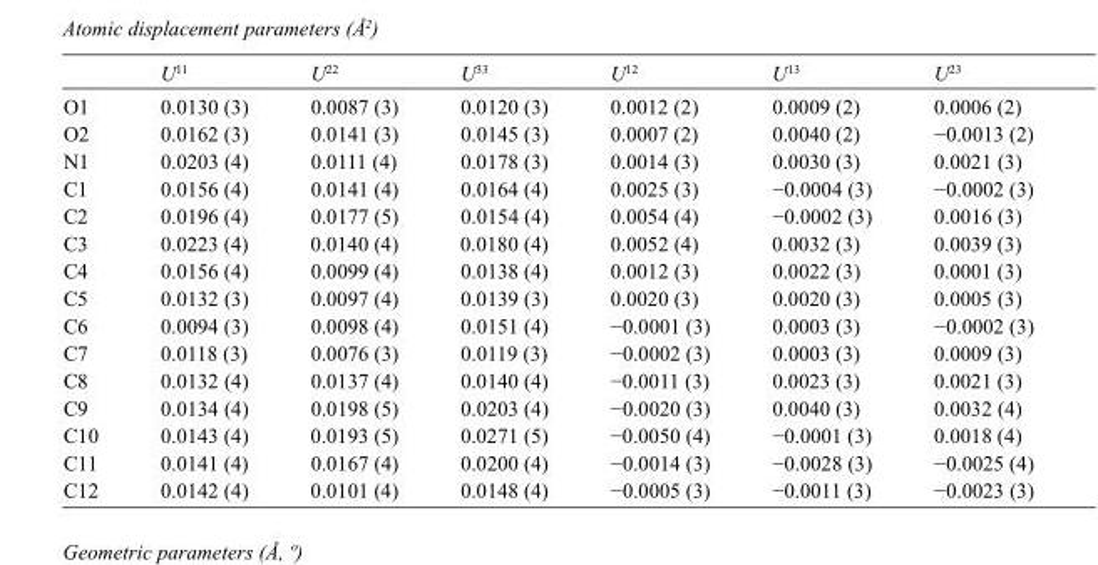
<table><thead><tr><td></td><td>U<sup>11</sup></td><td>U<sup>22</sup></td><td>U<sup>33</sup></td><td>U<sup>12</sup></td><td>U<sup>13</sup></td><td>U<sup>23</sup></td></tr></thead><tbody><tr><td>O1</td><td>0.0130 (3)</td><td>0.0087 (3)</td><td>0.0120 (3)</td><td>0.0012 (2)</td><td>0.0009 (2)</td><td>0.0006 (2)</td></tr><tr><td>O2</td><td>0.0162 (3)</td><td>0.0141 (3)</td><td>0.0145 (3)</td><td>0.0007 (2)</td><td>0.0040 (2)</td><td>−0.0013 (2)</td></tr><tr><td>N1</td><td>0.0203 (4)</td><td>0.0111 (4)</td><td>0.0178 (3)</td><td>0.0014 (3)</td><td>0.0030 (3)</td><td>0.0021 (3)</td></tr><tr><td>C1</td><td>0.0156 (4)</td><td>0.0141 (4)</td><td>0.0164 (4)</td><td>0.0025 (3)</td><td>−0.0004 (3)</td><td>−0.0002 (3)</td></tr><tr><td>C2</td><td>0.0196 (4)</td><td>0.0177 (5)</td><td>0.0154 (4)</td><td>0.0054 (4)</td><td>−0.0002 (3)</td><td>0.0016 (3)</td></tr><tr><td>C3</td><td>0.0223 (4)</td><td>0.0140 (4)</td><td>0.0180 (4)</td><td>0.0052 (4)</td><td>0.0032 (3)</td><td>0.0039 (3)</td></tr><tr><td>C4</td><td>0.0156 (4)</td><td>0.0099 (4)</td><td>0.0138 (4)</td><td>0.0012 (3)</td><td>0.0022 (3)</td><td>0.0001 (3)</td></tr><tr><td>C5</td><td>0.0132 (3)</td><td>0.0097 (4)</td><td>0.0139 (3)</td><td>0.0020 (3)</td><td>0.0020 (3)</td><td>0.0005 (3)</td></tr><tr><td>C6</td><td>0.0094 (3)</td><td>0.0098 (4)</td><td>0.0151 (4)</td><td>−0.0001 (3)</td><td>0.0003 (3)</td><td>−0.0002 (3)</td></tr><tr><td>C7</td><td>0.0118 (3)</td><td>0.0076 (3)</td><td>0.0119 (3)</td><td>−0.0002 (3)</td><td>0.0003 (3)</td><td>0.0009 (3)</td></tr><tr><td>C8</td><td>0.0132 (4)</td><td>0.0137 (4)</td><td>0.0140 (4)</td><td>−0.0011 (3)</td><td>0.0023 (3)</td><td>0.0021 (3)</td></tr><tr><td>C9</td><td>0.0134 (4)</td><td>0.0198 (5)</td><td>0.0203 (4)</td><td>−0.0020 (3)</td><td>0.0040 (3)</td><td>0.0032 (4)</td></tr><tr><td>C10</td><td>0.0143 (4)</td><td>0.0193 (5)</td><td>0.0271 (5)</td><td>−0.0050 (4)</td><td>−0.0001 (3)</td><td>0.0018 (4)</td></tr><tr><td>C11</td><td>0.0141 (4)</td><td>0.0167 (4)</td><td>0.0200 (4)</td><td>−0.0014 (3)</td><td>−0.0028 (3)</td><td>−0.0025 (4)</td></tr><tr><td>C12</td><td>0.0142 (4)</td><td>0.0101 (4)</td><td>0.0148 (4)</td><td>−0.0005 (3)</td><td>−0.0011 (3)</td><td>−0.0023 (3)</td></tr></tbody></table>